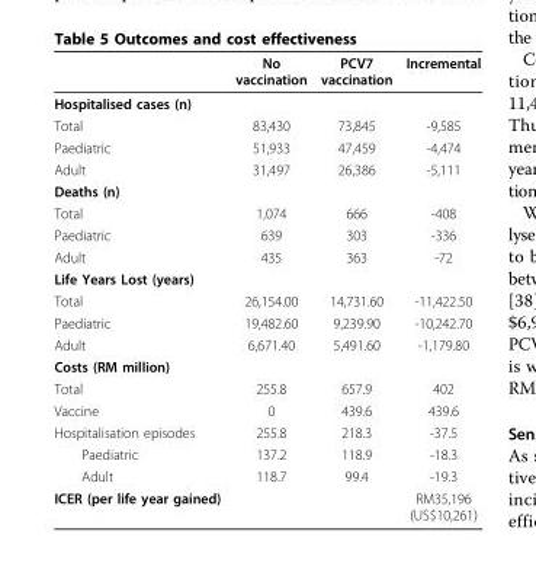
<table><thead><tr><td></td><td>No vaccination</td><td>PCV7 vaccination</td><td>Incremental</td></tr></thead><tbody><tr><td colspan="4">Hospitalised cases (n)</td></tr><tr><td>Total</td><td>83,430</td><td>73,845</td><td>-9,585</td></tr><tr><td>Paediatric</td><td>51,933</td><td>47,459</td><td>-4,474</td></tr><tr><td>Adult</td><td>31,497</td><td>26,386</td><td>-5,111</td></tr><tr><td colspan="4">Deaths (n)</td></tr><tr><td>Total</td><td>1,074</td><td>666</td><td>-408</td></tr><tr><td>Paediatric</td><td>639</td><td>303</td><td>-336</td></tr><tr><td>Adult</td><td>435</td><td>363</td><td>-72</td></tr><tr><td colspan="4">Life Years Lost (years)</td></tr><tr><td>Total</td><td>26,154.00</td><td>14,731.60</td><td>-11,422.50</td></tr><tr><td>Paediatric</td><td>19,482.60</td><td>9,239.90</td><td>-10,242.70</td></tr><tr><td>Adult</td><td>6,671.40</td><td>5,491.60</td><td>-1,179.80</td></tr><tr><td colspan="4">Costs (RM million)</td></tr><tr><td>Total</td><td>255.8</td><td>657.9</td><td>402</td></tr><tr><td>Vaccine</td><td>0</td><td>439.6</td><td>439.6</td></tr><tr><td>Hospitalisation episodes</td><td>255.8</td><td>218.3</td><td>-37.5</td></tr><tr><td>Paediatric</td><td>137.2</td><td>118.9</td><td>-18.3</td></tr><tr><td>Adult</td><td>118.7</td><td>99.4</td><td>-19.3</td></tr><tr><td>ICER (per life year gained)</td><td></td><td></td><td>RM35,196 (US$10,261)</td></tr></tbody></table>